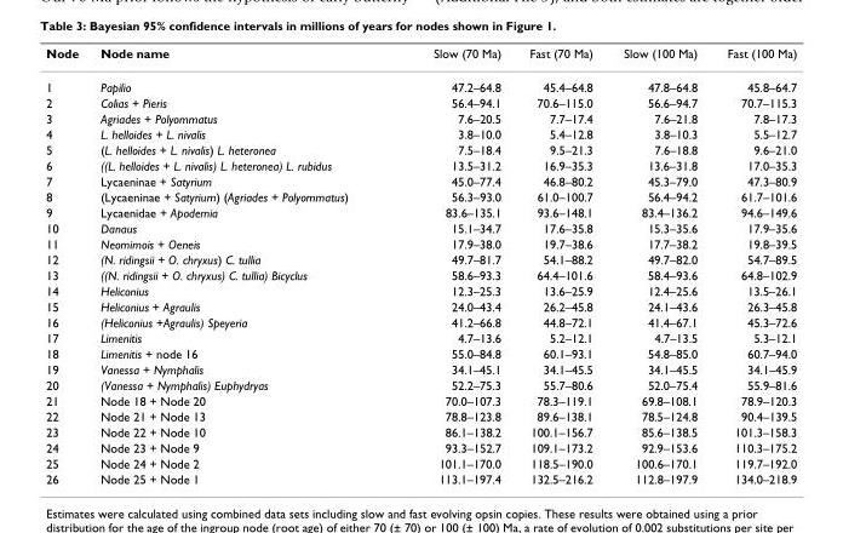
<table><thead><tr><td>Node</td><td>Node name</td><td>Slow (70 Ma)</td><td>Fast (70 Ma)</td><td>Slow (100 Ma)</td><td>Fast (100 Ma)</td></tr></thead><tbody><tr><td>1</td><td>Papilio</td><td>47.2–64.8</td><td>45.4–64.8</td><td>47.8–64.8</td><td>45.8–64.7</td></tr><tr><td>2</td><td>Colias + Pieris</td><td>56.4–94.1</td><td>70.6–115.0</td><td>56.6–94.7</td><td>70.7–115.3</td></tr><tr><td>3</td><td>Agriades + Polyommatus</td><td>7.6–20.5</td><td>7.7–17.4</td><td>7.6–21.8</td><td>7.8–17.3</td></tr><tr><td>4</td><td>L. helloides + L. nivalis</td><td>3.8–10.0</td><td>5.4–12.8</td><td>3.8–10.3</td><td>5.5–12.7</td></tr><tr><td>5</td><td>(L. helloides + L. nivalis) L. heteronea</td><td>7.5–18.4</td><td>9.5–21.3</td><td>7.6–18.8</td><td>9.6–21.0</td></tr><tr><td>6</td><td>((L. helloides + L. nivalis) L. heteronea) L. rubidus</td><td>13.5–31.2</td><td>16.9–35.3</td><td>13.6–31.8</td><td>17.0–35.3</td></tr><tr><td>7</td><td>Lycaeninae + Satyrium</td><td>45.0–77.4</td><td>46.8–80.2</td><td>45.3–79.0</td><td>47.3–80.9</td></tr><tr><td>8</td><td>(Lycaeninae + Satyrium) (Agriades + Polyommatus)</td><td>56.3–93.0</td><td>61.0–100.7</td><td>56.4–94.2</td><td>61.7–101.6</td></tr><tr><td>9</td><td>Lycaenidae + Apodemia</td><td>83.6–135.1</td><td>93.6–148.1</td><td>83.4–136.2</td><td>94.6–149.6</td></tr><tr><td>10</td><td>Danaus</td><td>15.1–34.7</td><td>17.6–35.8</td><td>15.3–35.6</td><td>17.9–35.6</td></tr><tr><td>11</td><td>Neomimois + Oeneis</td><td>17.9–38.0</td><td>19.7–38.6</td><td>17.7–38.2</td><td>19.8–39.5</td></tr><tr><td>12</td><td>(N. ridingsii + O. chryxus) C. tullia</td><td>49.7–81.7</td><td>54.1–88.2</td><td>49.7–82.0</td><td>54.7–89.5</td></tr><tr><td>13</td><td>((N. ridingsii + O. chryxus) C. tullia) Bicyclus</td><td>58.6–93.3</td><td>64.4–101.6</td><td>58.4–93.6</td><td>64.8–102.9</td></tr><tr><td>14</td><td>Heliconius</td><td>12.3–25.3</td><td>13.6–25.9</td><td>12.4–25.6</td><td>13.5–26.1</td></tr><tr><td>15</td><td>Heliconius + Agraulis</td><td>24.0–43.4</td><td>26.2–45.8</td><td>24.1–43.6</td><td>26.3–45.8</td></tr><tr><td>16</td><td>(Heliconius +Agraulis) Speyeria</td><td>41.2–66.8</td><td>44.8–72.1</td><td>41.4–67.1</td><td>45.3–72.6</td></tr><tr><td>17</td><td>Limenitis</td><td>4.7–13.6</td><td>5.2–12.1</td><td>4.7–13.5</td><td>5.3–12.1</td></tr><tr><td>18</td><td>Limenitis + node 16</td><td>55.0–84.8</td><td>60.1–93.1</td><td>54.8–85.0</td><td>60.7–94.0</td></tr><tr><td>19</td><td>Vanessa + Nymphalis</td><td>34.1–45.1</td><td>34.1–45.5</td><td>34.1–45.5</td><td>34.1–45.9</td></tr><tr><td>20</td><td>(Vanessa + Nymphalis) Euphydryas</td><td>52.2–75.3</td><td>55.7–80.6</td><td>52.0–75.4</td><td>55.9–81.6</td></tr><tr><td>21</td><td>Node 18 + Node 20</td><td>70.0–107.3</td><td>78.3–119.1</td><td>69.8–108.1</td><td>78.9–120.3</td></tr><tr><td>22</td><td>Node 21 + Node 13</td><td>78.8–123.8</td><td>89.6–138.1</td><td>78.5–124.8</td><td>90.4–139.5</td></tr><tr><td>23</td><td>Node 22 + Node 10</td><td>86.1–138.2</td><td>100.1–156.7</td><td>85.6–138.5</td><td>101.3–158.3</td></tr><tr><td>24</td><td>Node 23 + Node 9</td><td>93.3–152.7</td><td>109.1–173.2</td><td>92.9–153.6</td><td>110.3–175.2</td></tr><tr><td>25</td><td>Node 24 + Node 2</td><td>101.1–170.0</td><td>118.5–190.0</td><td>100.6–170.1</td><td>119.7–192.0</td></tr><tr><td>26</td><td>Node 25 + Node 1</td><td>113.1–197.4</td><td>132.5–216.2</td><td>112.8–197.9</td><td>134.0–218.9</td></tr></tbody></table>